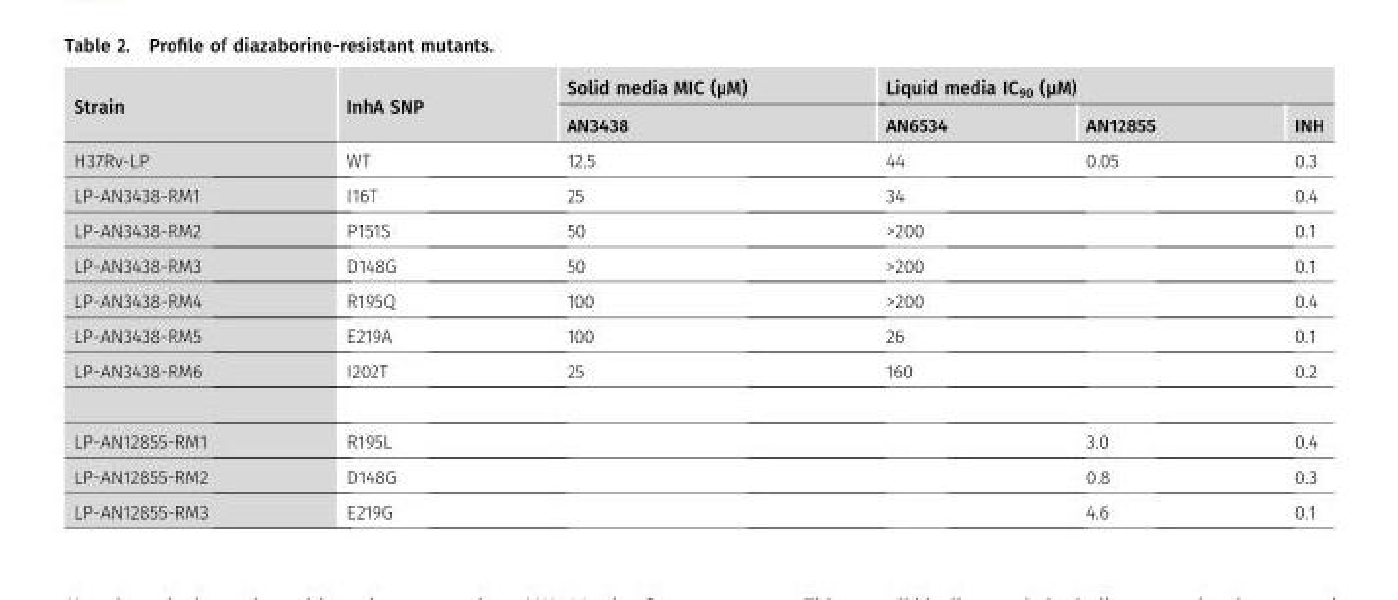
<table><thead><tr><td rowspan="2">Strain</td><td rowspan="2">InhA SNP</td><td rowspan="2">Solid media MIC (μM) AN3438</td><td colspan="3">Liquid media IC<sub>90</sub> (μM)</td></tr><tr><td>AN6534</td><td>AN12855</td><td>INH</td></tr></thead><tbody><tr><td>H37Rv-LP</td><td>WT</td><td>12.5</td><td>44</td><td>0.05</td><td>0.3</td></tr><tr><td>LP-AN3438-RM1</td><td>I16T</td><td>25</td><td>34</td><td></td><td>0.4</td></tr><tr><td>LP-AN3438-RM2</td><td>P151S</td><td>50</td><td>&gt;200</td><td></td><td>0.1</td></tr><tr><td>LP-AN3438-RM3</td><td>D148G</td><td>50</td><td>&gt;200</td><td></td><td>0.1</td></tr><tr><td>LP-AN3438-RM4</td><td>R195Q</td><td>100</td><td>&gt;200</td><td></td><td>0.4</td></tr><tr><td>LP-AN3438-RM5</td><td>E219A</td><td>100</td><td>26</td><td></td><td>0.1</td></tr><tr><td>LP-AN3438-RM6</td><td>I202T</td><td>25</td><td>160</td><td></td><td>0.2</td></tr><tr><td>LP-AN12855-RM1</td><td>R195L</td><td></td><td></td><td>3.0</td><td>0.4</td></tr><tr><td>LP-AN12855-RM2</td><td>D148G</td><td></td><td></td><td>0.8</td><td>0.3</td></tr><tr><td>LP-AN12855-RM3</td><td>E219G</td><td></td><td></td><td>4.6</td><td>0.1</td></tr></tbody></table>